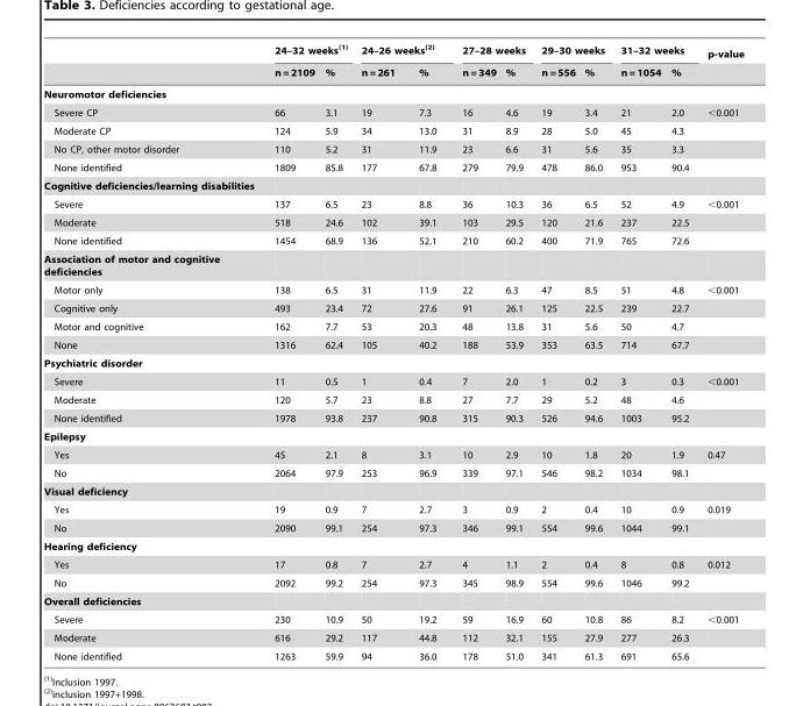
<table><thead><tr><td rowspan="2"></td><td colspan="2">24–32 weeks(1)</td><td colspan="2">24–26 weeks(2)</td><td colspan="2">27–28 weeks</td><td colspan="2">29–30 weeks</td><td colspan="2">31–32 weeks</td><td rowspan="2">p-value</td></tr><tr><td>n = 2109</td><td>%</td><td>n = 261</td><td>%</td><td>n = 349</td><td>%</td><td>n = 556</td><td>%</td><td>n = 1054</td><td>%</td></tr></thead><tbody><tr><td colspan="12">Neuromotor deficiencies</td></tr><tr><td>Severe CP</td><td>66</td><td>3.1</td><td>19</td><td>7.3</td><td>16</td><td>4.6</td><td>19</td><td>3.4</td><td>21</td><td>2.0</td><td>&lt;0.001</td></tr><tr><td>Moderate CP</td><td>124</td><td>5.9</td><td>34</td><td>13.0</td><td>31</td><td>8.9</td><td>28</td><td>5.0</td><td>45</td><td>4.3</td><td></td></tr><tr><td>No CP, other motor disorder</td><td>110</td><td>5.2</td><td>31</td><td>11.9</td><td>23</td><td>6.6</td><td>31</td><td>5.6</td><td>35</td><td>3.3</td><td></td></tr><tr><td>None identified</td><td>1809</td><td>85.8</td><td>177</td><td>67.8</td><td>279</td><td>79.9</td><td>478</td><td>86.0</td><td>953</td><td>90.4</td><td></td></tr><tr><td colspan="12">Cognitive deficiencies/learning disabilities</td></tr><tr><td>Severe</td><td>137</td><td>6.5</td><td>23</td><td>8.8</td><td>36</td><td>10.3</td><td>36</td><td>6.5</td><td>52</td><td>4.9</td><td>&lt;0.001</td></tr><tr><td>Moderate</td><td>518</td><td>24.6</td><td>102</td><td>39.1</td><td>103</td><td>29.5</td><td>120</td><td>21.6</td><td>237</td><td>22.5</td><td></td></tr><tr><td>None identified</td><td>1454</td><td>68.9</td><td>136</td><td>52.1</td><td>210</td><td>60.2</td><td>400</td><td>71.9</td><td>765</td><td>72.6</td><td></td></tr><tr><td colspan="12">Association of motor and cognitive deficiencies</td></tr><tr><td>Motor only</td><td>138</td><td>6.5</td><td>31</td><td>11.9</td><td>22</td><td>6.3</td><td>47</td><td>8.5</td><td>51</td><td>4.8</td><td>&lt;0.001</td></tr><tr><td>Cognitive only</td><td>493</td><td>23.4</td><td>72</td><td>27.6</td><td>91</td><td>26.1</td><td>125</td><td>22.5</td><td>239</td><td>22.7</td><td></td></tr><tr><td>Motor and cognitive</td><td>162</td><td>7.7</td><td>53</td><td>20.3</td><td>48</td><td>13.8</td><td>31</td><td>5.6</td><td>50</td><td>4.7</td><td></td></tr><tr><td>None</td><td>1316</td><td>62.4</td><td>105</td><td>40.2</td><td>188</td><td>53.9</td><td>353</td><td>63.5</td><td>714</td><td>67.7</td><td></td></tr><tr><td colspan="12">Psychiatric disorder</td></tr><tr><td>Severe</td><td>11</td><td>0.5</td><td>1</td><td>0.4</td><td>7</td><td>2.0</td><td>1</td><td>0.2</td><td>3</td><td>0.3</td><td>&lt;0.001</td></tr><tr><td>Moderate</td><td>120</td><td>5.7</td><td>23</td><td>8.8</td><td>27</td><td>7.7</td><td>29</td><td>5.2</td><td>48</td><td>4.6</td><td></td></tr><tr><td>None identified</td><td>1978</td><td>93.8</td><td>237</td><td>90.8</td><td>315</td><td>90.3</td><td>526</td><td>94.6</td><td>1003</td><td>95.2</td><td></td></tr><tr><td colspan="12">Epilepsy</td></tr><tr><td>Yes</td><td>45</td><td>2.1</td><td>8</td><td>3.1</td><td>10</td><td>2.9</td><td>10</td><td>1.8</td><td>20</td><td>1.9</td><td>0.47</td></tr><tr><td>No</td><td>2064</td><td>97.9</td><td>253</td><td>96.9</td><td>339</td><td>97.1</td><td>546</td><td>98.2</td><td>1034</td><td>98.1</td><td></td></tr><tr><td colspan="12">Visual deficiency</td></tr><tr><td>Yes</td><td>19</td><td>0.9</td><td>7</td><td>2.7</td><td>3</td><td>0.9</td><td>2</td><td>0.4</td><td>10</td><td>0.9</td><td>0.019</td></tr><tr><td>No</td><td>2090</td><td>99.1</td><td>254</td><td>97.3</td><td>346</td><td>99.1</td><td>554</td><td>99.6</td><td>1044</td><td>99.1</td><td></td></tr><tr><td colspan="12">Hearing deficiency</td></tr><tr><td>Yes</td><td>17</td><td>0.8</td><td>7</td><td>2.7</td><td>4</td><td>1.1</td><td>2</td><td>0.4</td><td>8</td><td>0.8</td><td>0.012</td></tr><tr><td>No</td><td>2092</td><td>99.2</td><td>254</td><td>97.3</td><td>345</td><td>98.9</td><td>554</td><td>99.6</td><td>1046</td><td>99.2</td><td></td></tr><tr><td colspan="12">Overall deficiencies</td></tr><tr><td>Severe</td><td>230</td><td>10.9</td><td>50</td><td>19.2</td><td>59</td><td>16.9</td><td>60</td><td>10.8</td><td>86</td><td>8.2</td><td>&lt;0.001</td></tr><tr><td>Moderate</td><td>616</td><td>29.2</td><td>117</td><td>44.8</td><td>112</td><td>32.1</td><td>155</td><td>27.9</td><td>277</td><td>26.3</td><td></td></tr><tr><td>None identified</td><td>1263</td><td>59.9</td><td>94</td><td>36.0</td><td>178</td><td>51.0</td><td>341</td><td>61.3</td><td>691</td><td>65.6</td><td></td></tr></tbody></table>